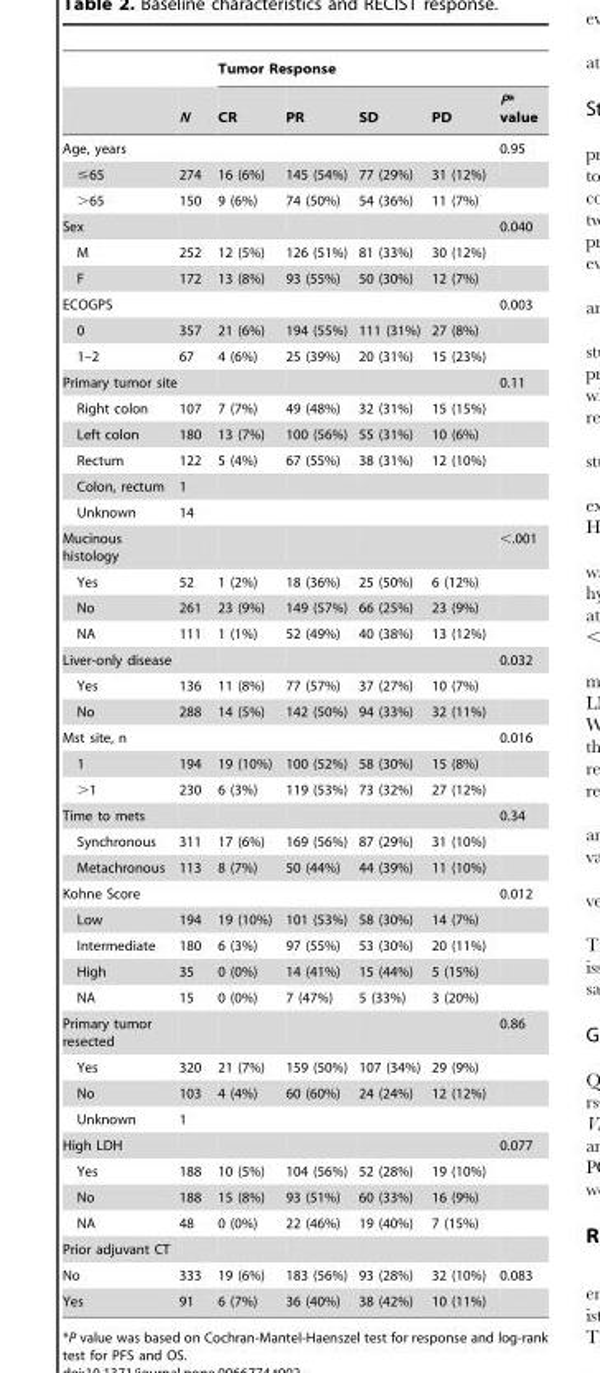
<table><thead><tr><td rowspan="2"></td><td rowspan="2">N</td><td colspan="5">Tumor Response</td></tr><tr><td>CR</td><td>PR</td><td>SD</td><td>PD</td><td>P* value</td></tr></thead><tbody><tr><td>Age, years</td><td></td><td></td><td></td><td></td><td></td><td>0.95</td></tr><tr><td>≤65</td><td>274</td><td>16 (6%)</td><td>145 (54%)</td><td>77 (29%)</td><td>31 (12%)</td><td></td></tr><tr><td>&gt;65</td><td>150</td><td>9 (6%)</td><td>74 (50%)</td><td>54 (36%)</td><td>11 (7%)</td><td></td></tr><tr><td>Sex</td><td></td><td></td><td></td><td></td><td></td><td>0.040</td></tr><tr><td>M</td><td>252</td><td>12 (5%)</td><td>126 (51%)</td><td>81 (33%)</td><td>30 (12%)</td><td></td></tr><tr><td>F</td><td>172</td><td>13 (8%)</td><td>93 (55%)</td><td>50 (30%)</td><td>12 (7%)</td><td></td></tr><tr><td>ECOGPS</td><td></td><td></td><td></td><td></td><td></td><td>0.003</td></tr><tr><td>0</td><td>357</td><td>21 (6%)</td><td>194 (55%)</td><td>111 (31%)</td><td>27 (8%)</td><td></td></tr><tr><td>1–2</td><td>67</td><td>4 (6%)</td><td>25 (39%)</td><td>20 (31%)</td><td>15 (23%)</td><td></td></tr><tr><td>Primary tumor site</td><td></td><td></td><td></td><td></td><td></td><td>0.11</td></tr><tr><td>Right colon</td><td>107</td><td>7 (7%)</td><td>49 (48%)</td><td>32 (31%)</td><td>15 (15%)</td><td></td></tr><tr><td>Left colon</td><td>180</td><td>13 (7%)</td><td>100 (56%)</td><td>55 (31%)</td><td>10 (6%)</td><td></td></tr><tr><td>Rectum</td><td>122</td><td>5 (4%)</td><td>67 (55%)</td><td>38 (31%)</td><td>12 (10%)</td><td></td></tr><tr><td>Colon, rectum</td><td>1</td><td></td><td></td><td></td><td></td><td></td></tr><tr><td>Unknown</td><td>14</td><td></td><td></td><td></td><td></td><td></td></tr><tr><td>Mucinous histology</td><td></td><td></td><td></td><td></td><td></td><td>&lt;.001</td></tr><tr><td>Yes</td><td>52</td><td>1 (2%)</td><td>18 (36%)</td><td>25 (50%)</td><td>6 (12%)</td><td></td></tr><tr><td>No</td><td>261</td><td>23 (9%)</td><td>149 (57%)</td><td>66 (25%)</td><td>23 (9%)</td><td></td></tr><tr><td>NA</td><td>111</td><td>1 (1%)</td><td>52 (49%)</td><td>40 (38%)</td><td>13 (12%)</td><td></td></tr><tr><td>Liver-only disease</td><td></td><td></td><td></td><td></td><td></td><td>0.032</td></tr><tr><td>Yes</td><td>136</td><td>11 (8%)</td><td>77 (57%)</td><td>37 (27%)</td><td>10 (7%)</td><td></td></tr><tr><td>No</td><td>288</td><td>14 (5%)</td><td>142 (50%)</td><td>94 (33%)</td><td>32 (11%)</td><td></td></tr><tr><td>Mst site, n</td><td></td><td></td><td></td><td></td><td></td><td>0.016</td></tr><tr><td>1</td><td>194</td><td>19 (10%)</td><td>100 (52%)</td><td>58 (30%)</td><td>15 (8%)</td><td></td></tr><tr><td>&gt;1</td><td>230</td><td>6 (3%)</td><td>119 (53%)</td><td>73 (32%)</td><td>27 (12%)</td><td></td></tr><tr><td>Time to mets</td><td></td><td></td><td></td><td></td><td></td><td>0.34</td></tr><tr><td>Synchronous</td><td>311</td><td>17 (6%)</td><td>169 (56%)</td><td>87 (29%)</td><td>31 (10%)</td><td></td></tr><tr><td>Metachronous</td><td>113</td><td>8 (7%)</td><td>50 (44%)</td><td>44 (39%)</td><td>11 (10%)</td><td></td></tr><tr><td>Kohne Score</td><td></td><td></td><td></td><td></td><td></td><td>0.012</td></tr><tr><td>Low</td><td>194</td><td>19 (10%)</td><td>101 (53%)</td><td>58 (30%)</td><td>14 (7%)</td><td></td></tr><tr><td>Intermediate</td><td>180</td><td>6 (3%)</td><td>97 (55%)</td><td>53 (30%)</td><td>20 (11%)</td><td></td></tr><tr><td>High</td><td>35</td><td>0 (0%)</td><td>14 (41%)</td><td>15 (44%)</td><td>5 (15%)</td><td></td></tr><tr><td>NA</td><td>15</td><td>0 (0%)</td><td>7 (47%)</td><td>5 (33%)</td><td>3 (20%)</td><td></td></tr><tr><td>Primary tumor resected</td><td></td><td></td><td></td><td></td><td></td><td>0.86</td></tr><tr><td>Yes</td><td>320</td><td>21 (7%)</td><td>159 (50%)</td><td>107 (34%)</td><td>29 (9%)</td><td></td></tr><tr><td>No</td><td>103</td><td>4 (4%)</td><td>60 (60%)</td><td>24 (24%)</td><td>12 (12%)</td><td></td></tr><tr><td>Unknown</td><td>1</td><td></td><td></td><td></td><td></td><td></td></tr><tr><td>High LDH</td><td></td><td></td><td></td><td></td><td></td><td>0.077</td></tr><tr><td>Yes</td><td>188</td><td>10 (5%)</td><td>104 (56%)</td><td>52 (28%)</td><td>19 (10%)</td><td></td></tr><tr><td>No</td><td>188</td><td>15 (8%)</td><td>93 (51%)</td><td>60 (33%)</td><td>16 (9%)</td><td></td></tr><tr><td>NA</td><td>48</td><td>0 (0%)</td><td>22 (46%)</td><td>19 (40%)</td><td>7 (15%)</td><td></td></tr><tr><td colspan="7">Prior adjuvant CT</td></tr><tr><td>No</td><td>333</td><td>19 (6%)</td><td>183 (56%)</td><td>93 (28%)</td><td>32 (10%)</td><td>0.083</td></tr><tr><td>Yes</td><td>91</td><td>6 (7%)</td><td>36 (40%)</td><td>38 (42%)</td><td>10 (11%)</td><td></td></tr></tbody></table>